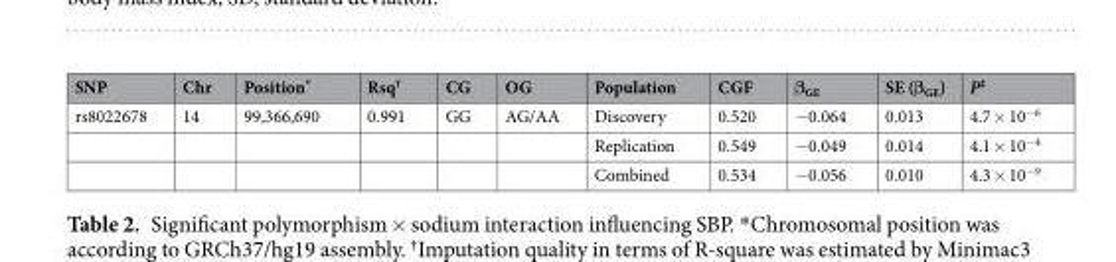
<table><thead><tr><td>SNP</td><td>Chr</td><td>Position*</td><td>Rsq<sup>†</sup></td><td>CG</td><td>OG</td><td>Population</td><td>CGF</td><td>β<sub>GE</sub></td><td>SE (β<sub>GE</sub>)</td><td>P<sup>‡</sup></td></tr></thead><tbody><tr><td rowspan="3">rs8022678</td><td>14</td><td>99,366,690</td><td>0.991</td><td>GG</td><td>AG/AA</td><td>Discovery</td><td>0.520</td><td>−0.064</td><td>0.013</td><td>4.7 × 10<sup>−6</sup></td></tr><tr><td></td><td></td><td></td><td></td><td></td><td>Replication</td><td>0.549</td><td>−0.049</td><td>0.014</td><td>4.1 × 10<sup>−4</sup></td></tr><tr><td></td><td></td><td></td><td></td><td></td><td>Combined</td><td>0.534</td><td>−0.056</td><td>0.010</td><td>4.3 × 10<sup>−9</sup></td></tr></tbody></table>